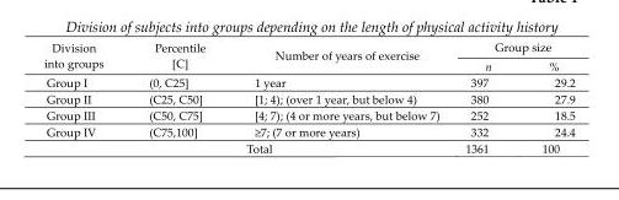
<table><thead><tr><td rowspan="2">Division into groups</td><td rowspan="2">Percentile [C]</td><td rowspan="2">Number of years of exercise</td><td colspan="2">Group size</td></tr><tr><td>n</td><td>%</td></tr></thead><tbody><tr><td>Group I</td><td>(0, C25]</td><td>1 year</td><td>397</td><td>29.2</td></tr><tr><td>Group II</td><td>(C25, C50]</td><td>[1; 4); (over 1 year, but below 4)</td><td>380</td><td>27.9</td></tr><tr><td>Group III</td><td>(C50, C75]</td><td>[4; 7); (4 or more years, but below 7)</td><td>252</td><td>18.5</td></tr><tr><td rowspan="2">Group IV</td><td>(C75,100]</td><td>≥7; (7 or more years)</td><td>332</td><td>24.4</td></tr><tr><td></td><td>Total</td><td>1361</td><td>100</td></tr></tbody></table>